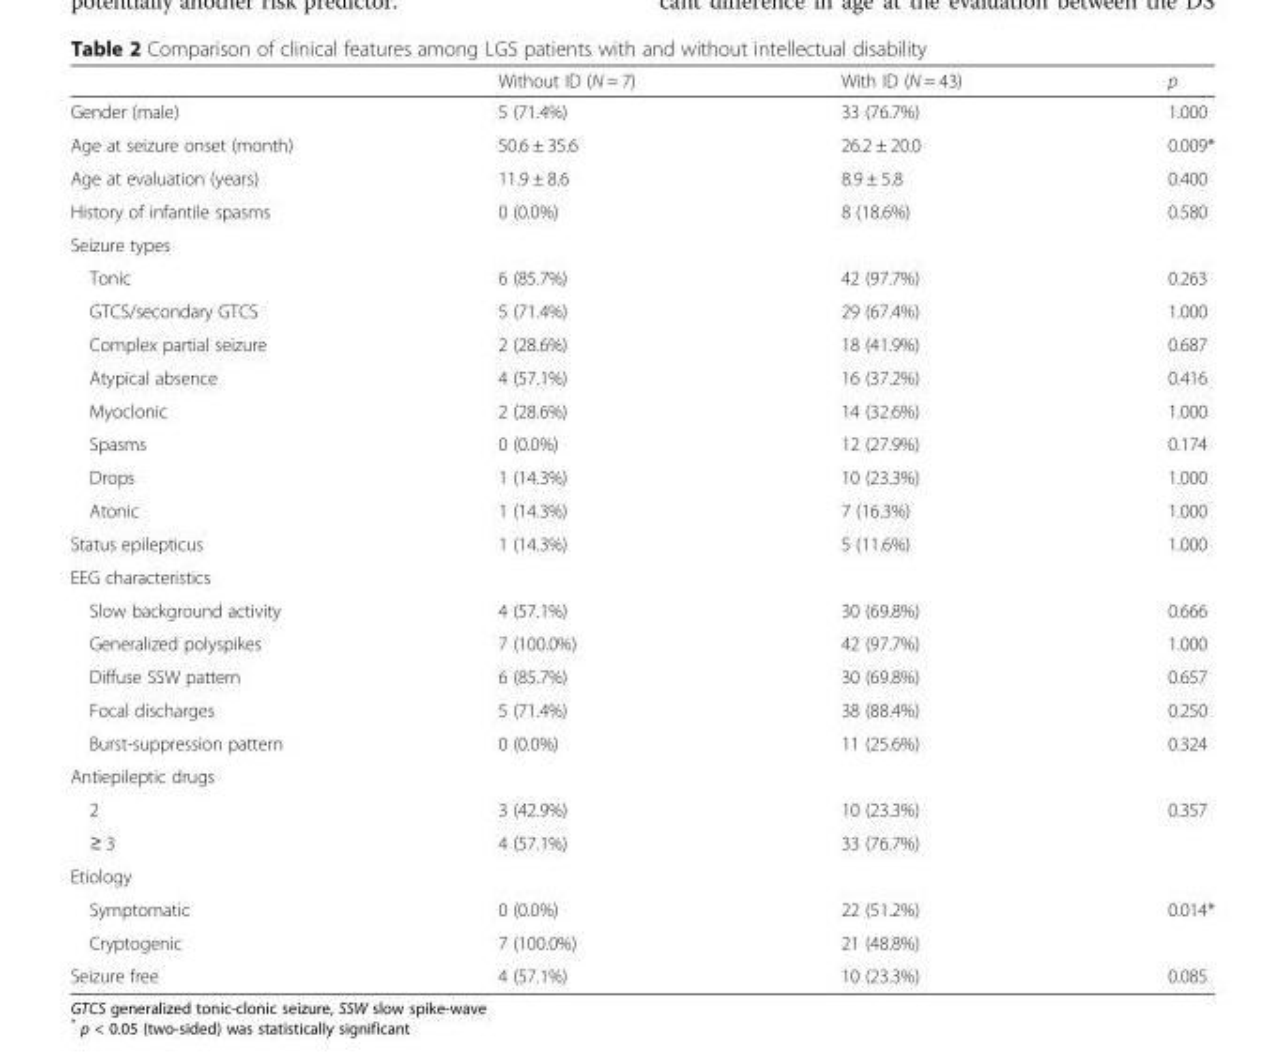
<table><thead><tr><td></td><td>Without ID (N = 7)</td><td>With ID (N = 43)</td><td>p</td></tr></thead><tbody><tr><td>Gender (male)</td><td>5 (71.4%)</td><td>33 (76.7%)</td><td>1.000</td></tr><tr><td>Age at seizure onset (month)</td><td>50.6 ± 35.6</td><td>26.2 ± 20.0</td><td>0.009*</td></tr><tr><td>Age at evaluation (years)</td><td>11.9 ± 8.6</td><td>8.9 ± 5.8</td><td>0.400</td></tr><tr><td>History of infantile spasms</td><td>0 (0.0%)</td><td>8 (18.6%)</td><td>0.580</td></tr><tr><td colspan="4">Seizure types</td></tr><tr><td>Tonic</td><td>6 (85.7%)</td><td>42 (97.7%)</td><td>0.263</td></tr><tr><td>GTCS/secondary GTCS</td><td>5 (71.4%)</td><td>29 (67.4%)</td><td>1.000</td></tr><tr><td>Complex partial seizure</td><td>2 (28.6%)</td><td>18 (41.9%)</td><td>0.687</td></tr><tr><td>Atypical absence</td><td>4 (57.1%)</td><td>16 (37.2%)</td><td>0.416</td></tr><tr><td>Myoclonic</td><td>2 (28.6%)</td><td>14 (32.6%)</td><td>1.000</td></tr><tr><td>Spasms</td><td>0 (0.0%)</td><td>12 (27.9%)</td><td>0.174</td></tr><tr><td>Drops</td><td>1 (14.3%)</td><td>10 (23.3%)</td><td>1.000</td></tr><tr><td>Atonic</td><td>1 (14.3%)</td><td>7 (16.3%)</td><td>1.000</td></tr><tr><td>Status epilepticus</td><td>1 (14.3%)</td><td>5 (11.6%)</td><td>1.000</td></tr><tr><td colspan="4">EEG characteristics</td></tr><tr><td>Slow background activity</td><td>4 (57.1%)</td><td>30 (69.8%)</td><td>0.666</td></tr><tr><td>Generalized polyspikes</td><td>7 (100.0%)</td><td>42 (97.7%)</td><td>1.000</td></tr><tr><td>Diffuse SSW pattern</td><td>6 (85.7%)</td><td>30 (69.8%)</td><td>0.657</td></tr><tr><td>Focal discharges</td><td>5 (71.4%)</td><td>38 (88.4%)</td><td>0.250</td></tr><tr><td>Burst-suppression pattern</td><td>0 (0.0%)</td><td>11 (25.6%)</td><td>0.324</td></tr><tr><td colspan="4">Antiepileptic drugs</td></tr><tr><td>2</td><td>3 (42.9%)</td><td>10 (23.3%)</td><td>0.357</td></tr><tr><td>≥ 3</td><td>4 (57.1%)</td><td>33 (76.7%)</td><td></td></tr><tr><td colspan="4">Etiology</td></tr><tr><td>Symptomatic</td><td>0 (0.0%)</td><td>22 (51.2%)</td><td>0.014*</td></tr><tr><td>Cryptogenic</td><td>7 (100.0%)</td><td>21 (48.8%)</td><td></td></tr><tr><td>Seizure free</td><td>4 (57.1%)</td><td>10 (23.3%)</td><td>0.085</td></tr></tbody></table>